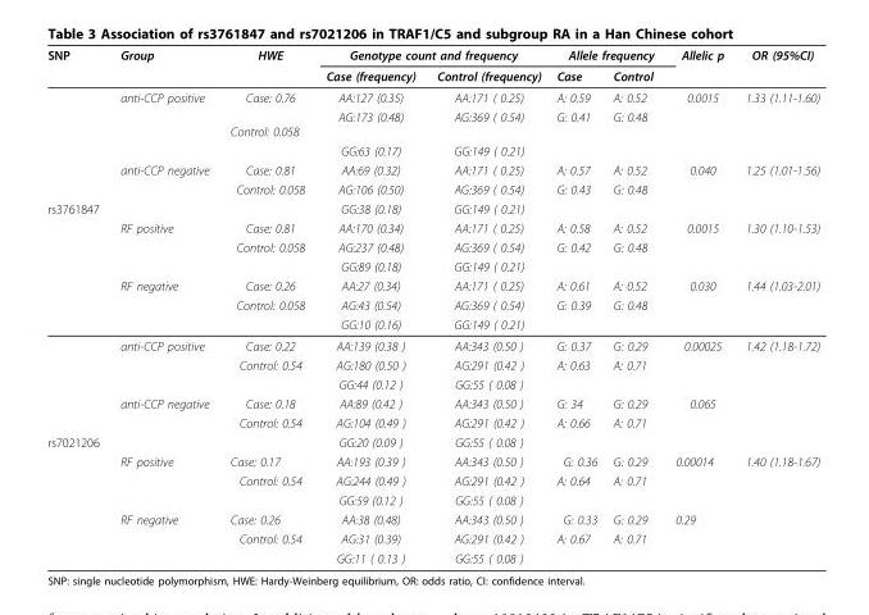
<table><thead><tr><td rowspan="2">SNP</td><td rowspan="2">Group</td><td rowspan="2">HWE</td><td colspan="2">Genotype count and frequency</td><td colspan="2">Allele frequency</td><td rowspan="2">Allelic p</td><td rowspan="2">OR (95%CI)</td></tr><tr><td>Case (frequency)</td><td>Control (frequency)</td><td>Case</td><td>Control</td></tr></thead><tbody><tr><td></td><td>anti-CCP positive</td><td>Case: 0.76</td><td>AA:127 (0.35)</td><td>AA:171 ( 0.25)</td><td>A: 0.59</td><td>A: 0.52</td><td>0.0015</td><td>1.33 (1.11-1.60)</td></tr><tr><td></td><td></td><td>Control: 0.058</td><td>AG:173 (0.48)</td><td>AG:369 ( 0.54)</td><td>G: 0.41</td><td>G: 0.48</td><td></td><td></td></tr><tr><td></td><td></td><td></td><td>GG:63 (0.17)</td><td>GG:149 ( 0.21)</td><td></td><td></td><td></td><td></td></tr><tr><td></td><td>anti-CCP negative</td><td>Case: 0.81</td><td>AA:69 (0.32)</td><td>AA:171 ( 0.25)</td><td>A: 0.57</td><td>A: 0.52</td><td>0.040</td><td>1.25 (1.01-1.56)</td></tr><tr><td></td><td></td><td>Control: 0.058</td><td>AG:106 (0.50)</td><td>AG:369 ( 0.54)</td><td>G: 0.43</td><td>G: 0.48</td><td></td><td></td></tr><tr><td rowspan="12">rs3761847</td><td></td><td></td><td>GG:38 (0.18)</td><td>GG:149 ( 0.21)</td><td></td><td></td><td></td><td></td></tr><tr><td>RF positive</td><td>Case: 0.81</td><td>AA:170 (0.34)</td><td>AA:171 ( 0.25)</td><td>A: 0.58</td><td>A: 0.52</td><td>0.0015</td><td>1.30 (1.10-1.53)</td></tr><tr><td></td><td>Control: 0.058</td><td>AG:237 (0.48)</td><td>AG:369 ( 0.54)</td><td>G: 0.42</td><td>G: 0.48</td><td></td><td></td></tr><tr><td></td><td></td><td>GG:89 (0.18)</td><td>GG:149 ( 0.21)</td><td></td><td></td><td></td><td></td></tr><tr><td>RF negative</td><td>Case: 0.26</td><td>AA:27 (0.34)</td><td>AA:171 ( 0.25)</td><td>A: 0.61</td><td>A: 0.52</td><td>0.030</td><td>1.44 (1.03-2.01)</td></tr><tr><td></td><td>Control: 0.058</td><td>AG:43 (0.54)</td><td>AG:369 ( 0.54)</td><td>G: 0.39</td><td>G: 0.48</td><td></td><td></td></tr><tr><td></td><td></td><td>GG:10 (0.16)</td><td>GG:149 ( 0.21)</td><td></td><td></td><td></td><td></td></tr><tr><td>anti-CCP positive</td><td>Case: 0.22</td><td>AA:139 (0.38 )</td><td>AA:343 (0.50 )</td><td>G: 0.37</td><td>G: 0.29</td><td>0.00025</td><td>1.42 (1.18-1.72)</td></tr><tr><td></td><td>Control: 0.54</td><td>AG:180 (0.50 )</td><td>AG:291 (0.42 )</td><td>A: 0.63</td><td>A: 0.71</td><td></td><td></td></tr><tr><td></td><td></td><td>GG:44 (0.12 )</td><td>GG:55 ( 0.08 )</td><td></td><td></td><td></td><td></td></tr><tr><td>anti-CCP negative</td><td>Case: 0.18</td><td>AA:89 (0.42 )</td><td>AA:343 (0.50 )</td><td>G: 34</td><td>G: 0.29</td><td>0.065</td><td></td></tr><tr><td></td><td>Control: 0.54</td><td>AG:104 (0.49 )</td><td>AG:291 (0.42 )</td><td>A: 0.66</td><td>A: 0.71</td><td></td><td></td></tr><tr><td rowspan="7">rs7021206</td><td></td><td></td><td>GG:20 (0.09 )</td><td>GG:55 ( 0.08 )</td><td></td><td></td><td></td><td></td></tr><tr><td>RF positive</td><td>Case: 0.17</td><td>AA:193 (0.39 )</td><td>AA:343 (0.50 )</td><td>G: 0.36</td><td>G: 0.29</td><td>0.00014</td><td>1.40 (1.18-1.67)</td></tr><tr><td></td><td>Control: 0.54</td><td>AG:244 (0.49 )</td><td>AG:291 (0.42 )</td><td>A: 0.64</td><td>A: 0.71</td><td></td><td></td></tr><tr><td></td><td></td><td>GG:59 (0.12 )</td><td>GG:55 ( 0.08 )</td><td></td><td></td><td></td><td></td></tr><tr><td>RF negative</td><td>Case: 0.26</td><td>AA:38 (0.48)</td><td>AA:343 (0.50 )</td><td>G: 0.33</td><td>G: 0.29</td><td>0.29</td><td></td></tr><tr><td></td><td>Control: 0.54</td><td>AG:31 (0.39)</td><td>AG:291 (0.42 )</td><td>A: 0.67</td><td>A: 0.71</td><td></td><td></td></tr><tr><td></td><td></td><td>GG:11 ( 0.13 )</td><td>GG:55 ( 0.08 )</td><td></td><td></td><td></td><td></td></tr></tbody></table>